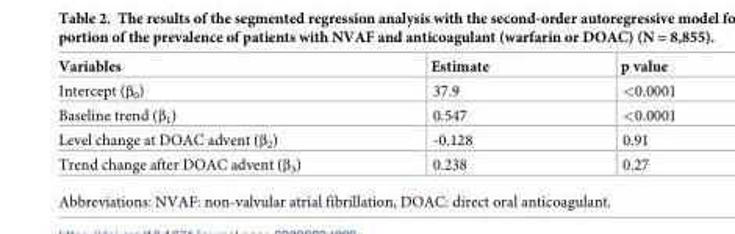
<table><thead><tr><td>Variables</td><td>Estimate</td><td>p value</td></tr></thead><tbody><tr><td>Intercept (β<sub>0</sub>)</td><td>37.9</td><td>&lt;0.0001</td></tr><tr><td>Baseline trend (β<sub>1</sub>)</td><td>0.547</td><td>&lt;0.0001</td></tr><tr><td>Level change at DOAC advent (β<sub>2</sub>)</td><td>-0.128</td><td>0.91</td></tr><tr><td>Trend change after DOAC advent (β<sub>3</sub>)</td><td>0.238</td><td>0.27</td></tr></tbody></table>